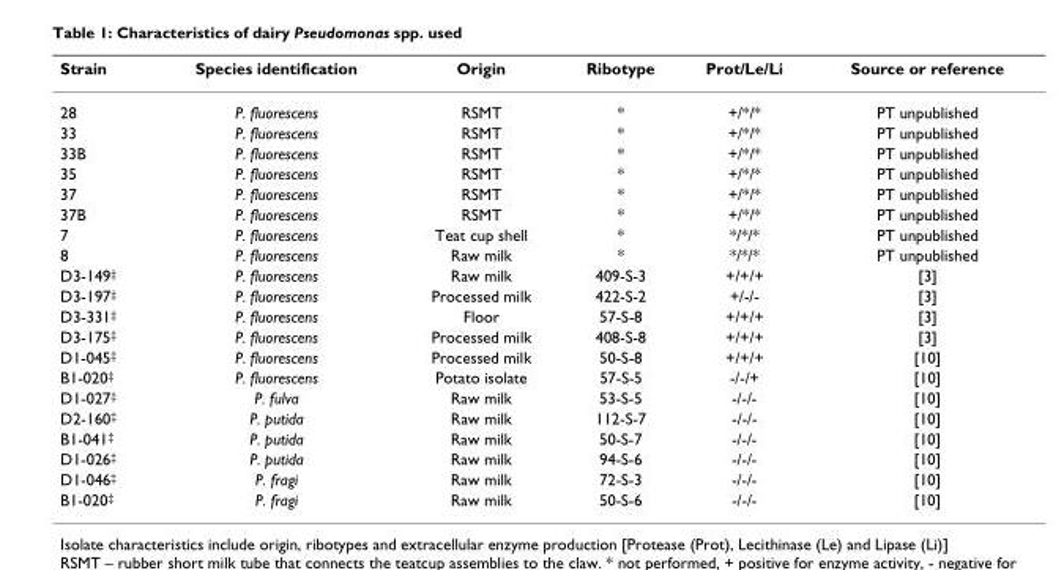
<table><thead><tr><td>Strain</td><td>Species identification</td><td>Origin</td><td>Ribotype</td><td>Prot/Le/Li</td><td>Source or reference</td></tr></thead><tbody><tr><td>28</td><td>P. fluorescens</td><td>RSMT</td><td>*</td><td>+/*/*</td><td>PT unpublished</td></tr><tr><td>33</td><td>P. fluorescens</td><td>RSMT</td><td>*</td><td>+/*/*</td><td>PT unpublished</td></tr><tr><td>33B</td><td>P. fluorescens</td><td>RSMT</td><td>*</td><td>+/*/*</td><td>PT unpublished</td></tr><tr><td>35</td><td>P. fluorescens</td><td>RSMT</td><td>*</td><td>+/*/*</td><td>PT unpublished</td></tr><tr><td>37</td><td>P. fluorescens</td><td>RSMT</td><td>*</td><td>+/*/*</td><td>PT unpublished</td></tr><tr><td>37B</td><td>P. fluorescens</td><td>RSMT</td><td>*</td><td>+/*/*</td><td>PT unpublished</td></tr><tr><td>7</td><td>P. fluorescens</td><td>Teat cup shell</td><td>*</td><td>*/*/*</td><td>PT unpublished</td></tr><tr><td>8</td><td>P. fluorescens</td><td>Raw milk</td><td>*</td><td>*/*/*</td><td>PT unpublished</td></tr><tr><td>D3-149<sup>‡</sup></td><td>P. fluorescens</td><td>Raw milk</td><td>409-S-3</td><td>+/+/+</td><td>[3]</td></tr><tr><td>D3-197<sup>‡</sup></td><td>P. fluorescens</td><td>Processed milk</td><td>422-S-2</td><td>+/-/-</td><td>[3]</td></tr><tr><td>D3-331<sup>‡</sup></td><td>P. fluorescens</td><td>Floor</td><td>57-S-8</td><td>+/+/+</td><td>[3]</td></tr><tr><td>D3-175<sup>‡</sup></td><td>P. fluorescens</td><td>Processed milk</td><td>408-S-8</td><td>+/+/+</td><td>[3]</td></tr><tr><td>D1-045<sup>‡</sup></td><td>P. fluorescens</td><td>Processed milk</td><td>50-S-8</td><td>+/+/+</td><td>[10]</td></tr><tr><td>B1-020<sup>‡</sup></td><td>P. fluorescens</td><td>Potato isolate</td><td>57-S-5</td><td>-/-/+</td><td>[10]</td></tr><tr><td>D1-027<sup>‡</sup></td><td>P. fulva</td><td>Raw milk</td><td>53-S-5</td><td>-/-/-</td><td>[10]</td></tr><tr><td>D2-160<sup>‡</sup></td><td>P. putida</td><td>Raw milk</td><td>112-S-7</td><td>-/-/-</td><td>[10]</td></tr><tr><td>B1-041<sup>‡</sup></td><td>P. putida</td><td>Raw milk</td><td>50-S-7</td><td>-/-/-</td><td>[10]</td></tr><tr><td>D1-026<sup>‡</sup></td><td>P. putida</td><td>Raw milk</td><td>94-S-6</td><td>-/-/-</td><td>[10]</td></tr><tr><td>D1-046<sup>‡</sup></td><td>P. fragi</td><td>Raw milk</td><td>72-S-3</td><td>-/-/-</td><td>[10]</td></tr><tr><td>B1-020<sup>‡</sup></td><td>P. fragi</td><td>Raw milk</td><td>50-S-6</td><td>-/-/-</td><td>[10]</td></tr></tbody></table>